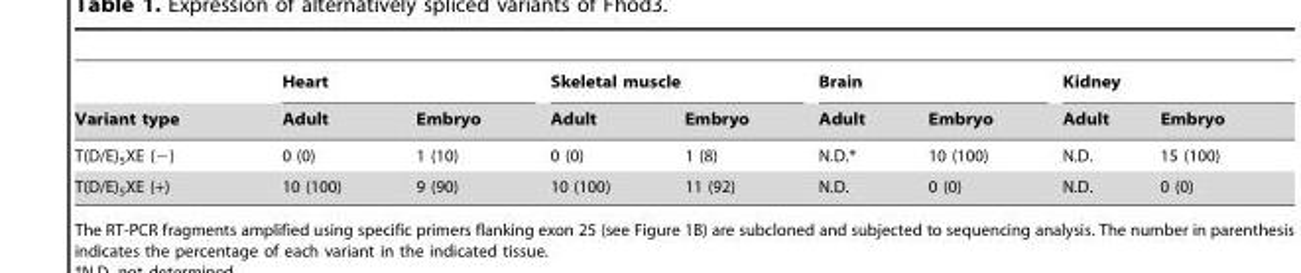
<table><thead><tr><td rowspan="2">Variant type</td><td colspan="2">Heart</td><td colspan="2">Skeletal muscle</td><td colspan="2">Brain</td><td colspan="2">Kidney</td></tr><tr><td>Adult</td><td>Embryo</td><td>Adult</td><td>Embryo</td><td>Adult</td><td>Embryo</td><td>Adult</td><td>Embryo</td></tr></thead><tbody><tr><td>T(D/E)<sub>5</sub>XE (−)</td><td>0 (0)</td><td>1 (10)</td><td>0 (0)</td><td>1 (8)</td><td>N.D.*</td><td>10 (100)</td><td>N.D.</td><td>15 (100)</td></tr><tr><td>T(D/E)<sub>5</sub>XE (+)</td><td>10 (100)</td><td>9 (90)</td><td>10 (100)</td><td>11 (92)</td><td>N.D.</td><td>0 (0)</td><td>N.D.</td><td>0 (0)</td></tr></tbody></table>